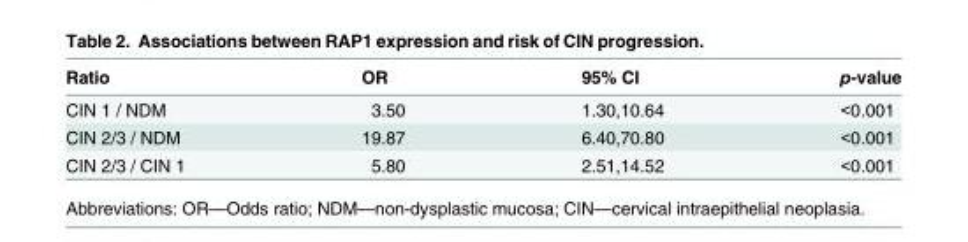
<table><thead><tr><td>Ratio</td><td>OR</td><td>95% CI</td><td>p-value</td></tr></thead><tbody><tr><td>CIN 1 / NDM</td><td>3.50</td><td>1.30,10.64</td><td>&lt;0.001</td></tr><tr><td>CIN 2/3 / NDM</td><td>19.87</td><td>6.40,70.80</td><td>&lt;0.001</td></tr><tr><td>CIN 2/3 / CIN 1</td><td>5.80</td><td>2.51,14.52</td><td>&lt;0.001</td></tr></tbody></table>